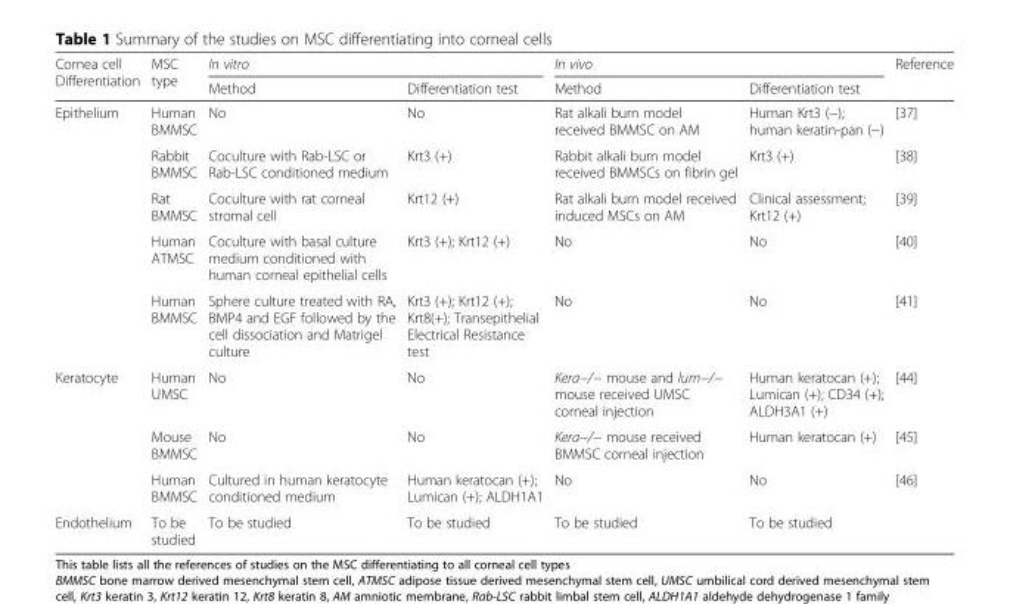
<table><thead><tr><td rowspan="2">Cornea cell Differentiation</td><td rowspan="2">MSC type</td><td colspan="2">In vitro</td><td colspan="2">In vivo</td><td rowspan="2">Reference</td></tr><tr><td>Method</td><td>Differentiation test</td><td>Method</td><td>Differentiation test</td></tr></thead><tbody><tr><td rowspan="5">Epithelium</td><td>Human BMMSC</td><td>No</td><td>No</td><td>Rat alkali burn model received BMMSC on AM</td><td>Human Krt3 (−); human keratin-pan (−)</td><td>[37]</td></tr><tr><td>Rabbit BMMSC</td><td>Coculture with Rab-LSC or Rab-LSC conditioned medium</td><td>Krt3 (+)</td><td>Rabbit alkali burn model received BMMSCs on fibrin gel</td><td>Krt3 (+)</td><td>[38]</td></tr><tr><td>Rat BMMSC</td><td>Coculture with rat corneal stromal cell</td><td>Krt12 (+)</td><td>Rat alkali burn model received induced MSCs on AM</td><td>Clinical assessment; Krt12 (+)</td><td>[39]</td></tr><tr><td>Human ATMSC</td><td>Coculture with basal culture medium conditioned with human corneal epithelial cells</td><td>Krt3 (+); Krt12 (+)</td><td>No</td><td>No</td><td>[40]</td></tr><tr><td>Human BMMSC</td><td>Sphere culture treated with RA, BMP4 and EGF followed by the cell dissociation and Matrigel culture</td><td>Krt3 (+); Krt12 (+); Krt8(+); Transepithelial Electrical Resistance test</td><td>No</td><td>No</td><td>[41]</td></tr><tr><td rowspan="3">Keratocyte</td><td>Human UMSC</td><td>No</td><td>No</td><td>Kera−/− mouse and lum−/− mouse received UMSC corneal injection</td><td>Human keratocan (+); Lumican (+); CD34 (+); ALDH3A1 (+)</td><td>[44]</td></tr><tr><td>Mouse BMMSC</td><td>No</td><td>No</td><td>Kera−/− mouse received BMMSC corneal injection</td><td>Human keratocan (+)</td><td>[45]</td></tr><tr><td>Human BMMSC</td><td>Cultured in human keratocyte conditioned medium</td><td>Human keratocan (+); Lumican (+); ALDH1A1</td><td>No</td><td>No</td><td>[46]</td></tr><tr><td>Endothelium</td><td>To be studied</td><td>To be studied</td><td>To be studied</td><td>To be studied</td><td>To be studied</td><td></td></tr></tbody></table>